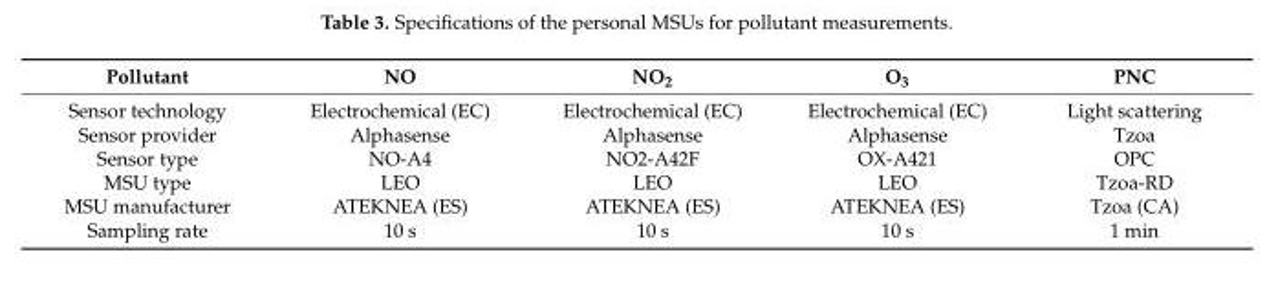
<table><thead><tr><td>Pollutant</td><td>NO</td><td>NO<sub>2</sub></td><td>O<sub>3</sub></td><td>PNC</td></tr></thead><tbody><tr><td>Sensor technology</td><td>Electrochemical (EC)</td><td>Electrochemical (EC)</td><td>Electrochemical (EC)</td><td>Light scattering</td></tr><tr><td>Sensor provider</td><td>Alphasense</td><td>Alphasense</td><td>Alphasense</td><td>Tzoa</td></tr><tr><td>Sensor type</td><td>NO-A4</td><td>NO2-A42F</td><td>OX-A421</td><td>OPC</td></tr><tr><td>MSU type</td><td>LEO</td><td>LEO</td><td>LEO</td><td>Tzoa-RD</td></tr><tr><td>MSU manufacturer</td><td>ATEKNEA (ES)</td><td>ATEKNEA (ES)</td><td>ATEKNEA (ES)</td><td>Tzoa (CA)</td></tr><tr><td>Sampling rate</td><td>10 s</td><td>10 s</td><td>10 s</td><td>1 min</td></tr></tbody></table>